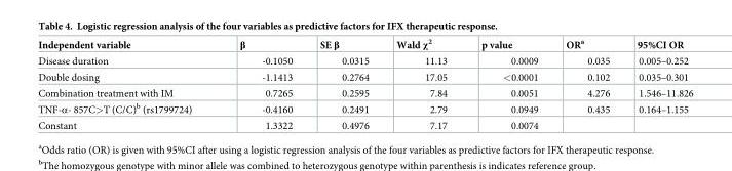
<table><thead><tr><td>Independent variable</td><td>β</td><td>SE β</td><td>Wald χ<sup>2</sup></td><td>p value</td><td>OR<sup>a</sup></td><td>95%CI OR</td></tr></thead><tbody><tr><td>Disease duration</td><td>-0.1050</td><td>0.0315</td><td>11.13</td><td>0.0009</td><td>0.035</td><td>0.005–0.252</td></tr><tr><td>Double dosing</td><td>-1.1413</td><td>0.2764</td><td>17.05</td><td>&lt;0.0001</td><td>0.102</td><td>0.035–0.301</td></tr><tr><td>Combination treatment with IM</td><td>0.7265</td><td>0.2595</td><td>7.84</td><td>0.0051</td><td>4.276</td><td>1.546–11.826</td></tr><tr><td>TNF-α- 857C&gt;T (C/C)<sup>b</sup> (rs1799724)</td><td>-0.4160</td><td>0.2491</td><td>2.79</td><td>0.0949</td><td>0.435</td><td>0.164–1.155</td></tr><tr><td>Constant</td><td>1.3322</td><td>0.4976</td><td>7.17</td><td>0.0074</td><td></td><td></td></tr></tbody></table>